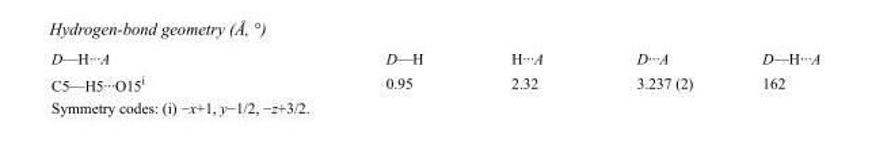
<table><tbody><tr><td>D—H···A</td><td>D—H</td><td>H···A</td><td>D···A</td><td>D—H···A</td></tr><tr><td>C5—H5···O15<sup>i</sup></td><td>0.95</td><td>2.32</td><td>3.237 (2)</td><td>162</td></tr></tbody></table>